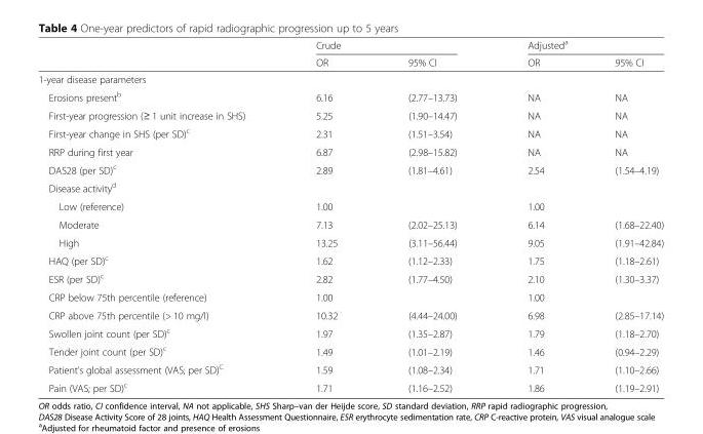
<table><thead><tr><td rowspan="2"></td><td colspan="2">Crude</td><td colspan="2">Adjusted<sup>a</sup></td></tr><tr><td>OR</td><td>95% CI</td><td>OR</td><td>95% CI</td></tr></thead><tbody><tr><td colspan="5">1-year disease parameters</td></tr><tr><td>Erosions present<sup>b</sup></td><td>6.16</td><td>(2.77–13.73)</td><td>NA</td><td>NA</td></tr><tr><td>First-year progression (≥ 1 unit increase in SHS)</td><td>5.25</td><td>(1.90–14.47)</td><td>NA</td><td>NA</td></tr><tr><td>First-year change in SHS (per SD)<sup>c</sup></td><td>2.31</td><td>(1.51–3.54)</td><td>NA</td><td>NA</td></tr><tr><td>RRP during first year</td><td>6.87</td><td>(2.98–15.82)</td><td>NA</td><td>NA</td></tr><tr><td>DAS28 (per SD)<sup>c</sup></td><td>2.89</td><td>(1.81–4.61)</td><td>2.54</td><td>(1.54–4.19)</td></tr><tr><td colspan="5">Disease activity<sup>d</sup></td></tr><tr><td>Low (reference)</td><td>1.00</td><td></td><td>1.00</td><td></td></tr><tr><td>Moderate</td><td>7.13</td><td>(2.02–25.13)</td><td>6.14</td><td>(1.68–22.40)</td></tr><tr><td>High</td><td>13.25</td><td>(3.11–56.44)</td><td>9.05</td><td>(1.91–42.84)</td></tr><tr><td>HAQ (per SD)<sup>c</sup></td><td>1.62</td><td>(1.12–2.33)</td><td>1.75</td><td>(1.18–2.61)</td></tr><tr><td>ESR (per SD)<sup>c</sup></td><td>2.82</td><td>(1.77–4.50)</td><td>2.10</td><td>(1.30–3.37)</td></tr><tr><td>CRP below 75th percentile (reference)</td><td>1.00</td><td></td><td>1.00</td><td></td></tr><tr><td>CRP above 75th percentile (&gt; 10 mg/l)</td><td>10.32</td><td>(4.44–24.00)</td><td>6.98</td><td>(2.85–17.14)</td></tr><tr><td>Swollen joint count (per SD)<sup>c</sup></td><td>1.97</td><td>(1.35–2.87)</td><td>1.79</td><td>(1.18–2.70)</td></tr><tr><td>Tender joint count (per SD)<sup>c</sup></td><td>1.49</td><td>(1.01–2.19)</td><td>1.46</td><td>(0.94–2.29)</td></tr><tr><td>Patient’s global assessment (VAS; per SD)<sup>C</sup></td><td>1.59</td><td>(1.08–2.34)</td><td>1.71</td><td>(1.10–2.66)</td></tr><tr><td>Pain (VAS; per SD)<sup>c</sup></td><td>1.71</td><td>(1.16–2.52)</td><td>1.86</td><td>(1.19–2.91)</td></tr></tbody></table>